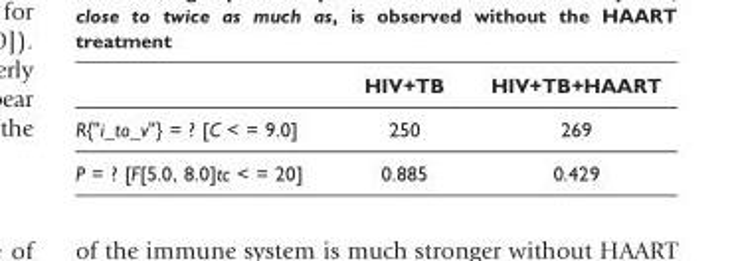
<table><thead><tr><td></td><td>HIV+TB</td><td>HIV+TB+HAART</td></tr></thead><tbody><tr><td>R{&quot;i_to_v&quot;} = ? [C &lt; = 9.0]</td><td>250</td><td>269</td></tr><tr><td>P = ? [F[5.0, 8.0]tc &lt; = 20]</td><td>0.885</td><td>0.429</td></tr></tbody></table>